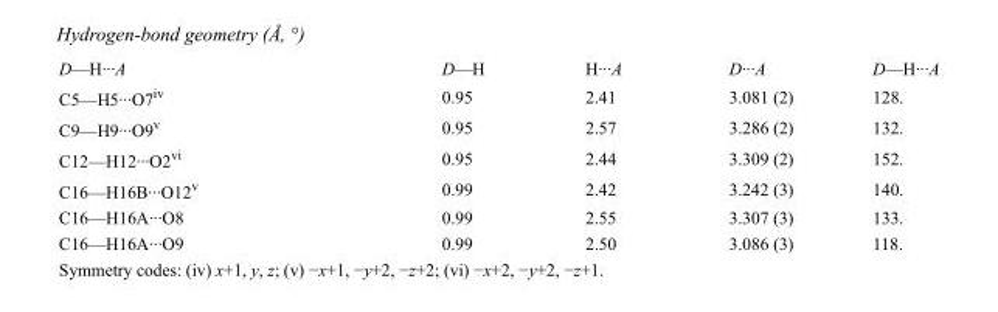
<table><tbody><tr><td>D—H···A</td><td>D—H</td><td>H···A</td><td>D···A</td><td>D—H···A</td></tr><tr><td>C5—H5···O7<sup>iv</sup></td><td>0.95</td><td>2.41</td><td>3.081 (2)</td><td>128.</td></tr><tr><td>C9—H9···O9<sup>v</sup></td><td>0.95</td><td>2.57</td><td>3.286 (2)</td><td>132.</td></tr><tr><td>C12—H12···O2<sup>vi</sup></td><td>0.95</td><td>2.44</td><td>3.309 (2)</td><td>152.</td></tr><tr><td>C16—H16B···O12<sup>v</sup></td><td>0.99</td><td>2.42</td><td>3.242 (3)</td><td>140.</td></tr><tr><td>C16—H16A···O8</td><td>0.99</td><td>2.55</td><td>3.307 (3)</td><td>133.</td></tr><tr><td>C16—H16A···O9</td><td>0.99</td><td>2.50</td><td>3.086 (3)</td><td>118.</td></tr></tbody></table>